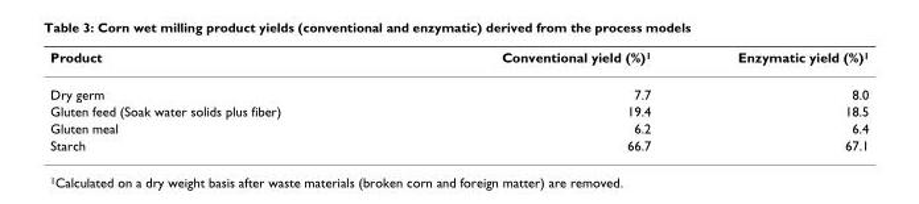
<table><thead><tr><td>Product</td><td>Conventional yield (%)<sup>1</sup></td><td>Enzymatic yield (%)<sup>1</sup></td></tr></thead><tbody><tr><td>Dry germ</td><td>7.7</td><td>8.0</td></tr><tr><td>Gluten feed (Soak water solids plus fiber)</td><td>19.4</td><td>18.5</td></tr><tr><td>Gluten meal</td><td>6.2</td><td>6.4</td></tr><tr><td>Starch</td><td>66.7</td><td>67.1</td></tr></tbody></table>